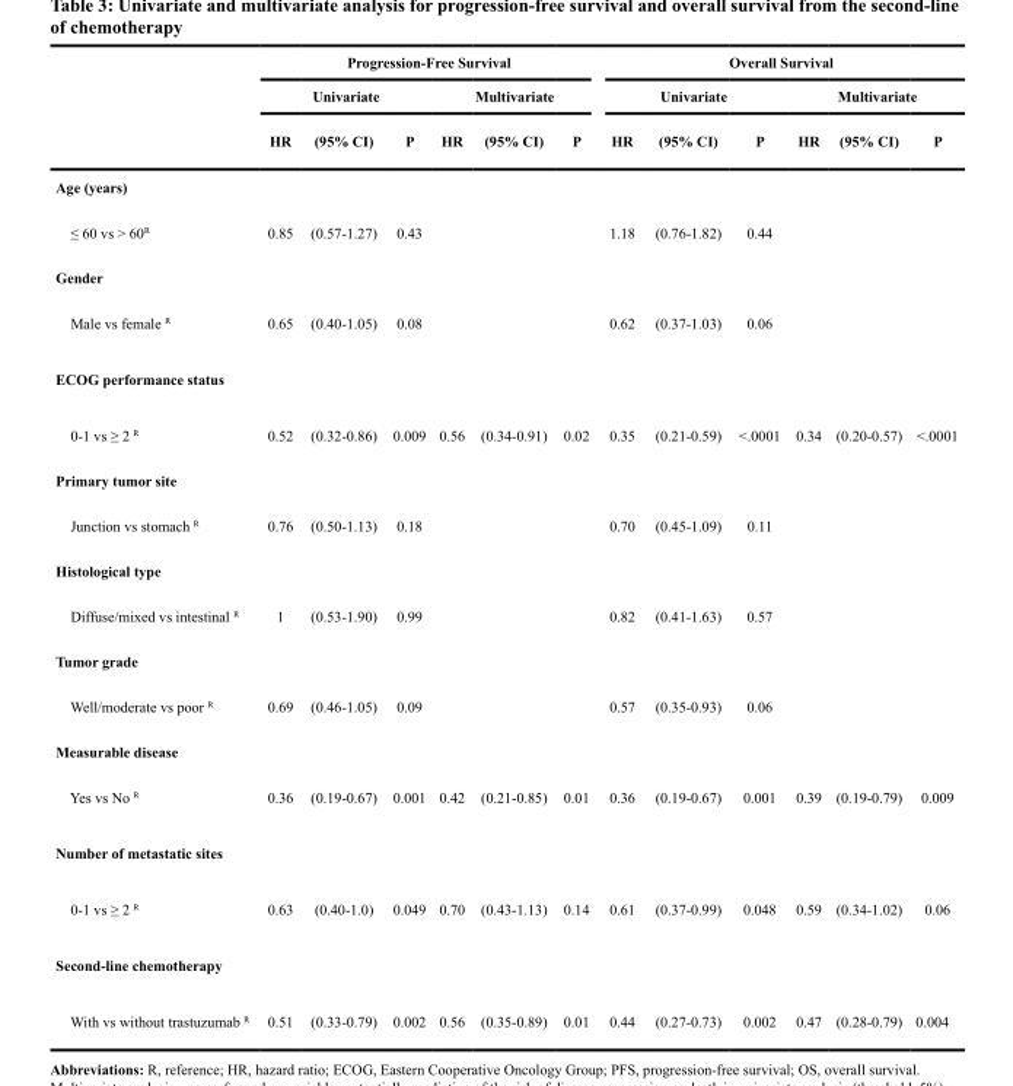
<table><thead><tr><td rowspan="3"></td><td colspan="6">Progression-Free Survival</td><td colspan="6">Overall Survival</td></tr><tr><td colspan="3">Univariate</td><td colspan="3">Multivariate</td><td colspan="3">Univariate</td><td colspan="3">Multivariate</td></tr><tr><td>HR</td><td>(95% CI)</td><td>P</td><td>HR</td><td>(95% CI)</td><td>P</td><td>HR</td><td>(95% CI)</td><td>P</td><td>HR</td><td>(95% CI)</td><td>P</td></tr></thead><tbody><tr><td colspan="13">Age (years)</td></tr><tr><td>≤ 60 vs &gt; 60<sup>R</sup></td><td>0.85</td><td>(0.57-1.27)</td><td>0.43</td><td></td><td></td><td></td><td>1.18</td><td>(0.76-1.82)</td><td>0.44</td><td></td><td></td><td></td></tr><tr><td colspan="13">Gender</td></tr><tr><td>Male vs female <sup>R</sup></td><td>0.65</td><td>(0.40-1.05)</td><td>0.08</td><td></td><td></td><td></td><td>0.62</td><td>(0.37-1.03)</td><td>0.06</td><td></td><td></td><td></td></tr><tr><td colspan="13">ECOG performance status</td></tr><tr><td>0-1 vs ≥ 2 <sup>R</sup></td><td>0.52</td><td>(0.32-0.86)</td><td>0.009</td><td>0.56</td><td>(0.34-0.91)</td><td>0.02</td><td>0.35</td><td>(0.21-0.59)</td><td>&lt;.0001</td><td>0.34</td><td>(0.20-0.57)</td><td>&lt;.0001</td></tr><tr><td colspan="13">Primary tumor site</td></tr><tr><td>Junction vs stomach <sup>R</sup></td><td>0.76</td><td>(0.50-1.13)</td><td>0.18</td><td></td><td></td><td></td><td>0.70</td><td>(0.45-1.09)</td><td>0.11</td><td></td><td></td><td></td></tr><tr><td colspan="13">Histological type</td></tr><tr><td>Diffuse/mixed vs intestinal <sup>R</sup></td><td>1</td><td>(0.53-1.90)</td><td>0.99</td><td></td><td></td><td></td><td>0.82</td><td>(0.41-1.63)</td><td>0.57</td><td></td><td></td><td></td></tr><tr><td colspan="13">Tumor grade</td></tr><tr><td>Well/moderate vs poor <sup>R</sup></td><td>0.69</td><td>(0.46-1.05)</td><td>0.09</td><td></td><td></td><td></td><td>0.57</td><td>(0.35-0.93)</td><td>0.06</td><td></td><td></td><td></td></tr><tr><td colspan="13">Measurable disease</td></tr><tr><td>Yes vs No <sup>R</sup></td><td>0.36</td><td>(0.19-0.67)</td><td>0.001</td><td>0.42</td><td>(0.21-0.85)</td><td>0.01</td><td>0.36</td><td>(0.19-0.67)</td><td>0.001</td><td>0.39</td><td>(0.19-0.79)</td><td>0.009</td></tr><tr><td colspan="13">Number of metastatic sites</td></tr><tr><td>0-1 vs ≥ 2 <sup>R</sup></td><td>0.63</td><td>(0.40-1.0)</td><td>0.049</td><td>0.70</td><td>(0.43-1.13)</td><td>0.14</td><td>0.61</td><td>(0.37-0.99)</td><td>0.048</td><td>0.59</td><td>(0.34-1.02)</td><td>0.06</td></tr><tr><td colspan="13">Second-line chemotherapy</td></tr><tr><td>With vs without trastuzumab <sup>R</sup></td><td>0.51</td><td>(0.33-0.79)</td><td>0.002</td><td>0.56</td><td>(0.35-0.89)</td><td>0.01</td><td>0.44</td><td>(0.27-0.73)</td><td>0.002</td><td>0.47</td><td>(0.28-0.79)</td><td>0.004</td></tr></tbody></table>